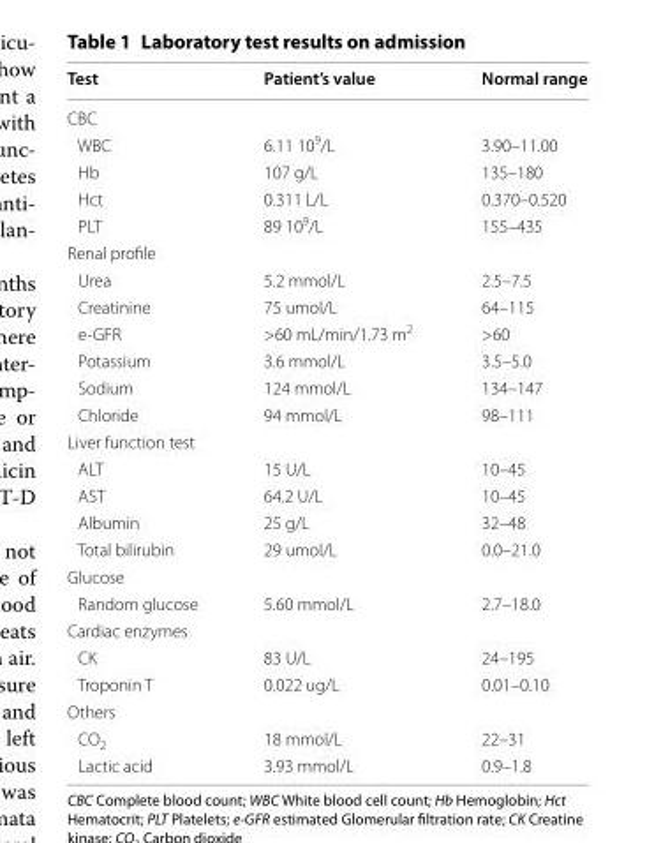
<table><thead><tr><td>Test</td><td>Patient’s value</td><td>Normal range</td></tr></thead><tbody><tr><td colspan="3">CBC</td></tr><tr><td>WBC</td><td>6.11 10<sup>9</sup>/L</td><td>3.90–11.00</td></tr><tr><td>Hb</td><td>107 g/L</td><td>135–180</td></tr><tr><td>Hct</td><td>0.311 L/L</td><td>0.370–0.520</td></tr><tr><td>PLT</td><td>89 10<sup>9</sup>/L</td><td>155–435</td></tr><tr><td colspan="3">Renal profile</td></tr><tr><td>Urea</td><td>5.2 mmol/L</td><td>2.5–7.5</td></tr><tr><td>Creatinine</td><td>75 umol/L</td><td>64–115</td></tr><tr><td>e‑GFR</td><td>&gt;60 mL/min/1.73 m<sup>2</sup></td><td>&gt;60</td></tr><tr><td>Potassium</td><td>3.6 mmol/L</td><td>3.5–5.0</td></tr><tr><td>Sodium</td><td>124 mmol/L</td><td>134–147</td></tr><tr><td>Chloride</td><td>94 mmol/L</td><td>98–111</td></tr><tr><td colspan="3">Liver function test</td></tr><tr><td>ALT</td><td>15 U/L</td><td>10–45</td></tr><tr><td>AST</td><td>64.2 U/L</td><td>10–45</td></tr><tr><td>Albumin</td><td>25 g/L</td><td>32–48</td></tr><tr><td>Total bilirubin</td><td>29 umol/L</td><td>0.0–21.0</td></tr><tr><td colspan="3">Glucose</td></tr><tr><td>Random glucose</td><td>5.60 mmol/L</td><td>2.7–18.0</td></tr><tr><td colspan="3">Cardiac enzymes</td></tr><tr><td>CK</td><td>83 U/L</td><td>24–195</td></tr><tr><td>Troponin T</td><td>0.022 ug/L</td><td>0.01–0.10</td></tr><tr><td colspan="3">Others</td></tr><tr><td>CO<sub>2</sub></td><td>18 mmol/L</td><td>22–31</td></tr><tr><td>Lactic acid</td><td>3.93 mmol/L</td><td>0.9–1.8</td></tr></tbody></table>